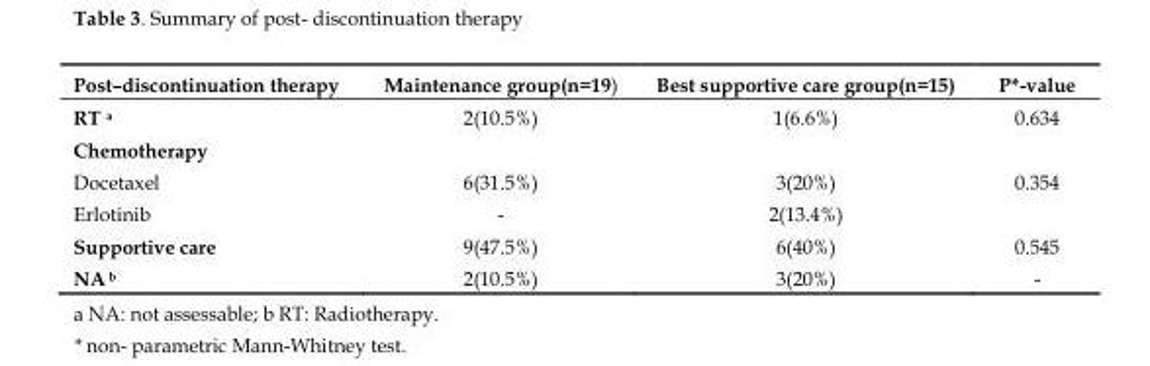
<table><thead><tr><td>Post–discontinuation therapy</td><td>Maintenance group(n=19)</td><td>Best supportive care group(n=15)</td><td>P*-value</td></tr></thead><tbody><tr><td>RT <sup>a</sup></td><td>2(10.5%)</td><td>1(6.6%)</td><td>0.634</td></tr><tr><td colspan="4">Chemotherapy</td></tr><tr><td>Docetaxel</td><td>6(31.5%)</td><td>3(20%)</td><td>0.354</td></tr><tr><td>Erlotinib</td><td>-</td><td>2(13.4%)</td><td></td></tr><tr><td>Supportive care</td><td>9(47.5%)</td><td>6(40%)</td><td>0.545</td></tr><tr><td>NA <sup>b</sup></td><td>2(10.5%)</td><td>3(20%)</td><td>-</td></tr></tbody></table>